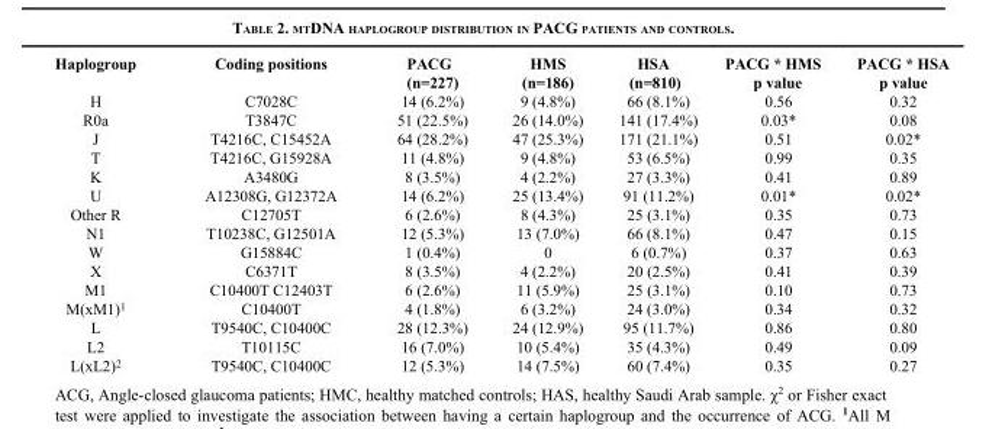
<table><thead><tr><td>Haplogroup</td><td>Coding positions</td><td>PACG (n=227)</td><td>HMS (n=186)</td><td>HSA (n=810)</td><td>PACG * HMS p value</td><td>PACG * HSA p value</td></tr></thead><tbody><tr><td>H</td><td>C7028C</td><td>14 (6.2%)</td><td>9 (4.8%)</td><td>66 (8.1%)</td><td>0.56</td><td>0.32</td></tr><tr><td>R0a</td><td>T3847C</td><td>51 (22.5%)</td><td>26 (14.0%)</td><td>141 (17.4%)</td><td>0.03*</td><td>0.08</td></tr><tr><td>J</td><td>T4216C, C15452A</td><td>64 (28.2%)</td><td>47 (25.3%)</td><td>171 (21.1%)</td><td>0.51</td><td>0.02*</td></tr><tr><td>T</td><td>T4216C, G15928A</td><td>11 (4.8%)</td><td>9 (4.8%)</td><td>53 (6.5%)</td><td>0.99</td><td>0.35</td></tr><tr><td>K</td><td>A3480G</td><td>8 (3.5%)</td><td>4 (2.2%)</td><td>27 (3.3%)</td><td>0.41</td><td>0.89</td></tr><tr><td>U</td><td>A12308G, G12372A</td><td>14 (6.2%)</td><td>25 (13.4%)</td><td>91 (11.2%)</td><td>0.01*</td><td>0.02*</td></tr><tr><td>Other R</td><td>C12705T</td><td>6 (2.6%)</td><td>8 (4.3%)</td><td>25 (3.1%)</td><td>0.35</td><td>0.73</td></tr><tr><td>N1</td><td>T10238C, G12501A</td><td>12 (5.3%)</td><td>13 (7.0%)</td><td>66 (8.1%)</td><td>0.47</td><td>0.15</td></tr><tr><td>W</td><td>G15884C</td><td>1 (0.4%)</td><td>0</td><td>6 (0.7%)</td><td>0.37</td><td>0.63</td></tr><tr><td>X</td><td>C6371T</td><td>8 (3.5%)</td><td>4 (2.2%)</td><td>20 (2.5%)</td><td>0.41</td><td>0.39</td></tr><tr><td>M1</td><td>C10400T C12403T</td><td>6 (2.6%)</td><td>11 (5.9%)</td><td>25 (3.1%)</td><td>0.10</td><td>0.73</td></tr><tr><td>M(xM1)<sup>1</sup></td><td>C10400T</td><td>4 (1.8%)</td><td>6 (3.2%)</td><td>24 (3.0%)</td><td>0.34</td><td>0.32</td></tr><tr><td>L</td><td>T9540C, C10400C</td><td>28 (12.3%)</td><td>24 (12.9%)</td><td>95 (11.7%)</td><td>0.86</td><td>0.80</td></tr><tr><td>L2</td><td>T10115C</td><td>16 (7.0%)</td><td>10 (5.4%)</td><td>35 (4.3%)</td><td>0.49</td><td>0.09</td></tr><tr><td>L(xL2)<sup>2</sup></td><td>T9540C, C10400C</td><td>12 (5.3%)</td><td>14 (7.5%)</td><td>60 (7.4%)</td><td>0.35</td><td>0.27</td></tr></tbody></table>